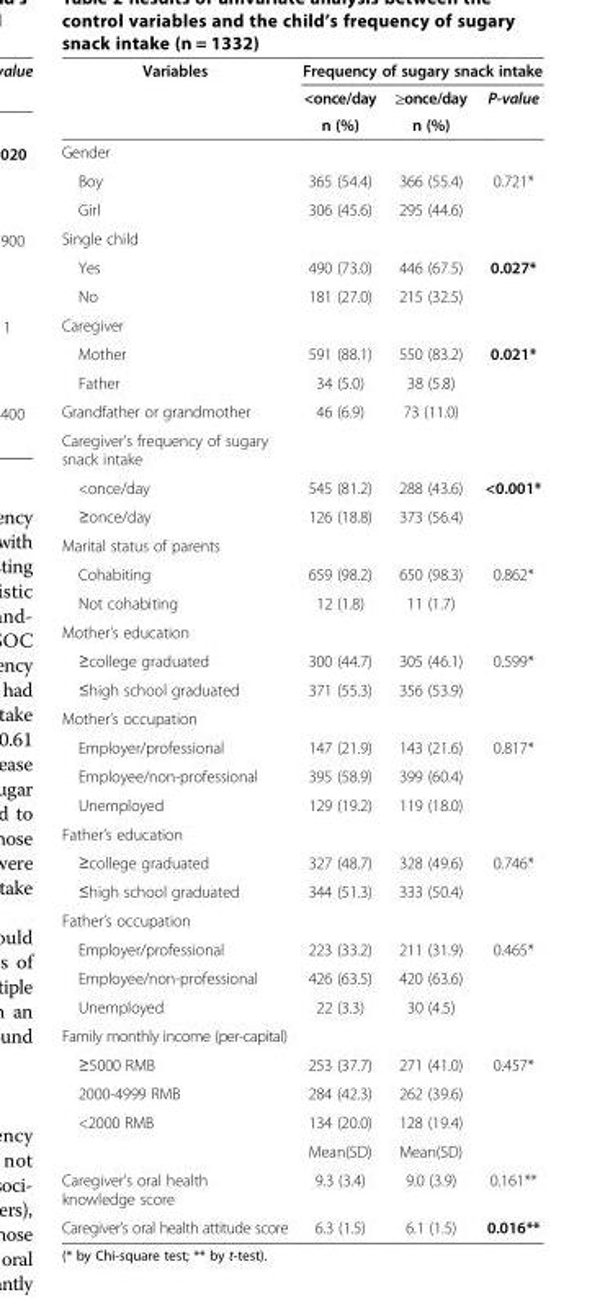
<table><thead><tr><td rowspan="3">Variables</td><td colspan="3">Frequency of sugary snack intake</td></tr><tr><td rowspan="2">&lt;once/day n (%)</td><td rowspan="2">≥once/day n (%)</td><td rowspan="2">P-value</td></tr><tr></tr></thead><tbody><tr><td colspan="4">Gender</td></tr><tr><td>Boy</td><td>365 (54.4)</td><td>366 (55.4)</td><td>0.721*</td></tr><tr><td>Girl</td><td>306 (45.6)</td><td>295 (44.6)</td><td></td></tr><tr><td colspan="4">Single child</td></tr><tr><td>Yes</td><td>490 (73.0)</td><td>446 (67.5)</td><td>0.027*</td></tr><tr><td>No</td><td>181 (27.0)</td><td>215 (32.5)</td><td></td></tr><tr><td colspan="4">Caregiver</td></tr><tr><td>Mother</td><td>591 (88.1)</td><td>550 (83.2)</td><td>0.021*</td></tr><tr><td>Father</td><td>34 (5.0)</td><td>38 (5.8)</td><td></td></tr><tr><td>Grandfather or grandmother</td><td>46 (6.9)</td><td>73 (11.0)</td><td></td></tr><tr><td colspan="4">Caregiver’s frequency of sugary snack intake</td></tr><tr><td>&lt;once/day</td><td>545 (81.2)</td><td>288 (43.6)</td><td>&lt;0.001*</td></tr><tr><td>≥once/day</td><td>126 (18.8)</td><td>373 (56.4)</td><td></td></tr><tr><td colspan="4">Marital status of parents</td></tr><tr><td>Cohabiting</td><td>659 (98.2)</td><td>650 (98.3)</td><td>0.862*</td></tr><tr><td>Not cohabiting</td><td>12 (1.8)</td><td>11 (1.7)</td><td></td></tr><tr><td colspan="4">Mother’s education</td></tr><tr><td>≥college graduated</td><td>300 (44.7)</td><td>305 (46.1)</td><td>0.599*</td></tr><tr><td>≤high school graduated</td><td>371 (55.3)</td><td>356 (53.9)</td><td></td></tr><tr><td colspan="4">Mother’s occupation</td></tr><tr><td>Employer/professional</td><td>147 (21.9)</td><td>143 (21.6)</td><td>0.817*</td></tr><tr><td>Employee/non-professional</td><td>395 (58.9)</td><td>399 (60.4)</td><td></td></tr><tr><td>Unemployed</td><td>129 (19.2)</td><td>119 (18.0)</td><td></td></tr><tr><td colspan="4">Father’s education</td></tr><tr><td>≥college graduated</td><td>327 (48.7)</td><td>328 (49.6)</td><td>0.746*</td></tr><tr><td>≤high school graduated</td><td>344 (51.3)</td><td>333 (50.4)</td><td></td></tr><tr><td colspan="4">Father’s occupation</td></tr><tr><td>Employer/professional</td><td>223 (33.2)</td><td>211 (31.9)</td><td>0.465*</td></tr><tr><td>Employee/non-professional</td><td>426 (63.5)</td><td>420 (63.6)</td><td></td></tr><tr><td>Unemployed</td><td>22 (3.3)</td><td>30 (4.5)</td><td></td></tr><tr><td colspan="4">Family monthly income (per-capital)</td></tr><tr><td>≥5000 RMB</td><td>253 (37.7)</td><td>271 (41.0)</td><td>0.457*</td></tr><tr><td>2000-4999 RMB</td><td>284 (42.3)</td><td>262 (39.6)</td><td></td></tr><tr><td rowspan="2">&lt;2000 RMB</td><td>134 (20.0)</td><td>128 (19.4)</td><td></td></tr><tr><td>Mean(SD)</td><td>Mean(SD)</td><td></td></tr><tr><td>Caregiver’s oral health knowledge score</td><td>9.3 (3.4)</td><td>9.0 (3.9)</td><td>0.161**</td></tr><tr><td>Caregiver’s oral health attitude score</td><td>6.3 (1.5)</td><td>6.1 (1.5)</td><td>0.016**</td></tr></tbody></table>